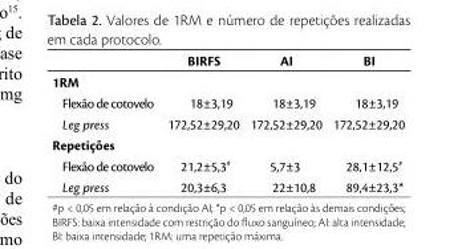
<table><thead><tr><td></td><td>BIRFS</td><td>AI</td><td>BI</td></tr></thead><tbody><tr><td colspan="4">1RM</td></tr><tr><td>Flexão de cotovelo</td><td>18±3,19</td><td>18±3,19</td><td>18±3,19</td></tr><tr><td>Leg press</td><td>172,52±29,20</td><td>172,52±29,20</td><td>172,52±29,20</td></tr><tr><td colspan="4">Repetições</td></tr><tr><td>Flexão de cotovelo</td><td>21,2±5,3#</td><td>5,7±3</td><td>28,1±12,5#</td></tr><tr><td>Leg press</td><td>20,3±6,3</td><td>22±10,8</td><td>89,4±23,3*</td></tr></tbody></table>